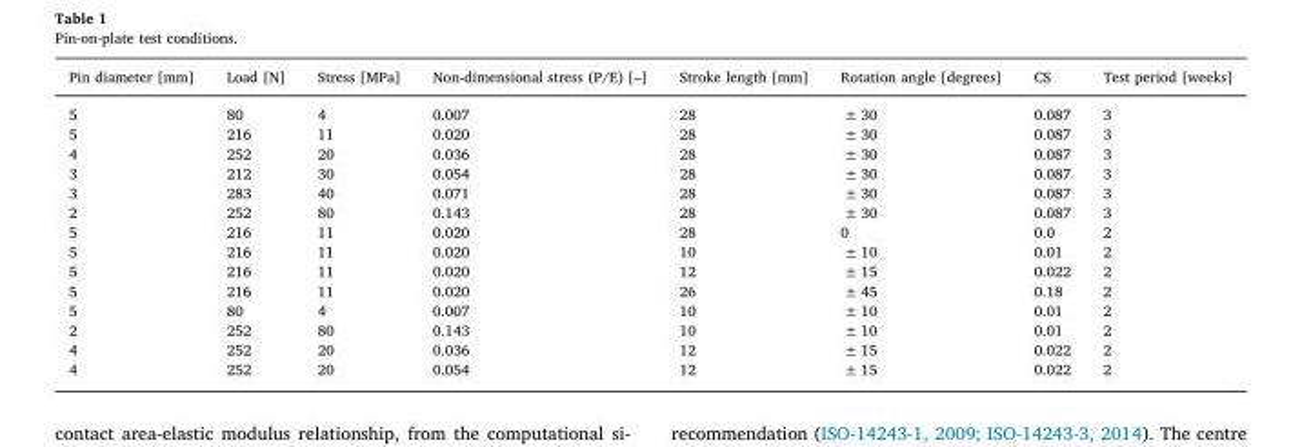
<table><thead><tr><td>Pin diameter [mm]</td><td>Load [N]</td><td>Stress [MPa]</td><td>Non-dimensional stress (P/E) [–]</td><td>Stroke length [mm]</td><td>Rotation angle [degrees]</td><td>CS</td><td>Test period [weeks]</td></tr></thead><tbody><tr><td>5</td><td>80</td><td>4</td><td>0.007</td><td>28</td><td>± 30</td><td>0.087</td><td>3</td></tr><tr><td>5</td><td>216</td><td>11</td><td>0.020</td><td>28</td><td>± 30</td><td>0.087</td><td>3</td></tr><tr><td>4</td><td>252</td><td>20</td><td>0.036</td><td>28</td><td>± 30</td><td>0.087</td><td>3</td></tr><tr><td>3</td><td>212</td><td>30</td><td>0.054</td><td>28</td><td>± 30</td><td>0.087</td><td>3</td></tr><tr><td>3</td><td>283</td><td>40</td><td>0.071</td><td>28</td><td>± 30</td><td>0.087</td><td>3</td></tr><tr><td>2</td><td>252</td><td>80</td><td>0.143</td><td>28</td><td>± 30</td><td>0.087</td><td>3</td></tr><tr><td>5</td><td>216</td><td>11</td><td>0.020</td><td>28</td><td>0</td><td>0.0</td><td>2</td></tr><tr><td>5</td><td>216</td><td>11</td><td>0.020</td><td>10</td><td>± 10</td><td>0.01</td><td>2</td></tr><tr><td>5</td><td>216</td><td>11</td><td>0.020</td><td>12</td><td>± 15</td><td>0.022</td><td>2</td></tr><tr><td>5</td><td>216</td><td>11</td><td>0.020</td><td>26</td><td>± 45</td><td>0.18</td><td>2</td></tr><tr><td>5</td><td>80</td><td>4</td><td>0.007</td><td>10</td><td>± 10</td><td>0.01</td><td>2</td></tr><tr><td>2</td><td>252</td><td>80</td><td>0.143</td><td>10</td><td>± 10</td><td>0.01</td><td>2</td></tr><tr><td>4</td><td>252</td><td>20</td><td>0.036</td><td>12</td><td>± 15</td><td>0.022</td><td>2</td></tr><tr><td>4</td><td>252</td><td>20</td><td>0.054</td><td>12</td><td>± 15</td><td>0.022</td><td>2</td></tr></tbody></table>